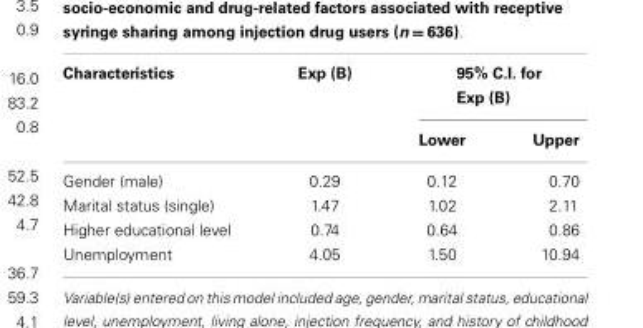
<table><thead><tr><td rowspan="2">Characteristics</td><td rowspan="2">Exp (B)</td><td colspan="2">95% C.I. for Exp (B)</td></tr><tr><td>Lower</td><td>Upper</td></tr></thead><tbody><tr><td>Gender (male)</td><td>0.29</td><td>0.12</td><td>0.70</td></tr><tr><td>Marital status (single)</td><td>1.47</td><td>1.02</td><td>2.11</td></tr><tr><td>Higher educational level</td><td>0.74</td><td>0.64</td><td>0.86</td></tr><tr><td>Unemployment</td><td>4.05</td><td>1.50</td><td>10.94</td></tr></tbody></table>